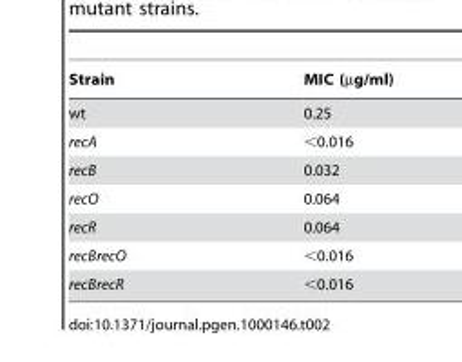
<table><thead><tr><td>Strain</td><td>MIC (µg/ml)</td></tr></thead><tbody><tr><td>wt</td><td>0.25</td></tr><tr><td>recA</td><td>&lt;0.016</td></tr><tr><td>recB</td><td>0.032</td></tr><tr><td>recO</td><td>0.064</td></tr><tr><td>recR</td><td>0.064</td></tr><tr><td>recBrecO</td><td>&lt;0.016</td></tr><tr><td>recBrecR</td><td>&lt;0.016</td></tr></tbody></table>